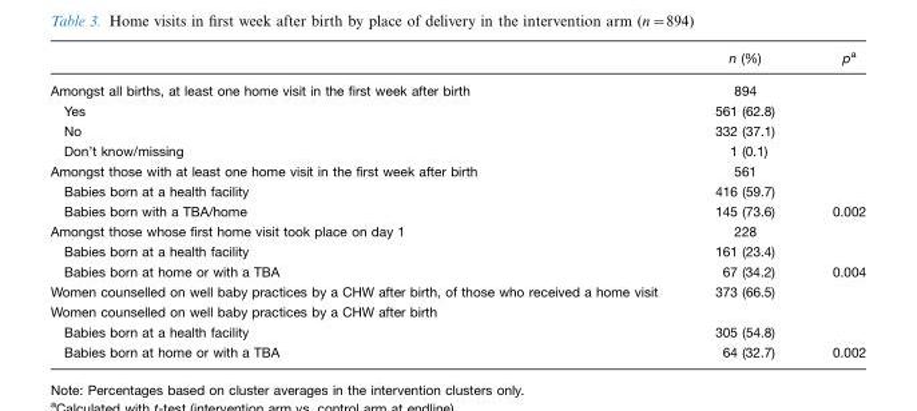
<table><thead><tr><td></td><td>n (%)</td><td>pa</td></tr></thead><tbody><tr><td>Amongst all births, at least one home visit in the first week after birth</td><td>894</td><td></td></tr><tr><td>Yes</td><td>561 (62.8)</td><td></td></tr><tr><td>No</td><td>332 (37.1)</td><td></td></tr><tr><td>Don’t know/missing</td><td>1 (0.1)</td><td></td></tr><tr><td>Amongst those with at least one home visit in the first week after birth</td><td>561</td><td></td></tr><tr><td>Babies born at a health facility</td><td>416 (59.7)</td><td></td></tr><tr><td>Babies born with a TBA/home</td><td>145 (73.6)</td><td>0.002</td></tr><tr><td>Amongst those whose first home visit took place on day 1</td><td>228</td><td></td></tr><tr><td>Babies born at a health facility</td><td>161 (23.4)</td><td></td></tr><tr><td>Babies born at home or with a TBA</td><td>67 (34.2)</td><td>0.004</td></tr><tr><td>Women counselled on well baby practices by a CHW after birth, of those who received a home visit</td><td>373 (66.5)</td><td></td></tr><tr><td colspan="3">Women counselled on well baby practices by a CHW after birth</td></tr><tr><td>Babies born at a health facility</td><td>305 (54.8)</td><td></td></tr><tr><td>Babies born at home or with a TBA</td><td>64 (32.7)</td><td>0.002</td></tr></tbody></table>